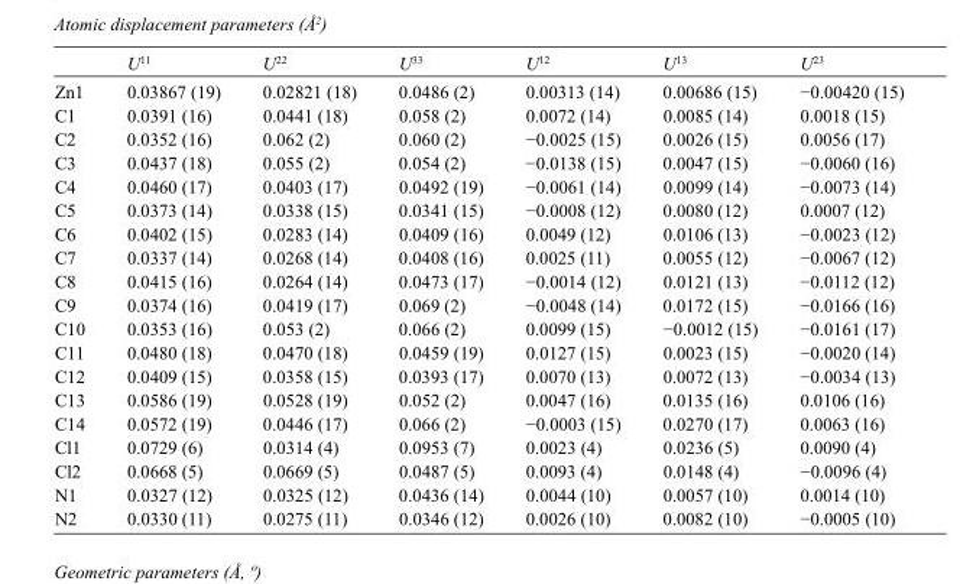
<table><thead><tr><td></td><td>U<sup>11</sup></td><td>U<sup>22</sup></td><td>U<sup>33</sup></td><td>U<sup>12</sup></td><td>U<sup>13</sup></td><td>U<sup>23</sup></td></tr></thead><tbody><tr><td>Zn1</td><td>0.03867 (19)</td><td>0.02821 (18)</td><td>0.0486 (2)</td><td>0.00313 (14)</td><td>0.00686 (15)</td><td>−0.00420 (15)</td></tr><tr><td>C1</td><td>0.0391 (16)</td><td>0.0441 (18)</td><td>0.058 (2)</td><td>0.0072 (14)</td><td>0.0085 (14)</td><td>0.0018 (15)</td></tr><tr><td>C2</td><td>0.0352 (16)</td><td>0.062 (2)</td><td>0.060 (2)</td><td>−0.0025 (15)</td><td>0.0026 (15)</td><td>0.0056 (17)</td></tr><tr><td>C3</td><td>0.0437 (18)</td><td>0.055 (2)</td><td>0.054 (2)</td><td>−0.0138 (15)</td><td>0.0047 (15)</td><td>−0.0060 (16)</td></tr><tr><td>C4</td><td>0.0460 (17)</td><td>0.0403 (17)</td><td>0.0492 (19)</td><td>−0.0061 (14)</td><td>0.0099 (14)</td><td>−0.0073 (14)</td></tr><tr><td>C5</td><td>0.0373 (14)</td><td>0.0338 (15)</td><td>0.0341 (15)</td><td>−0.0008 (12)</td><td>0.0080 (12)</td><td>0.0007 (12)</td></tr><tr><td>C6</td><td>0.0402 (15)</td><td>0.0283 (14)</td><td>0.0409 (16)</td><td>0.0049 (12)</td><td>0.0106 (13)</td><td>−0.0023 (12)</td></tr><tr><td>C7</td><td>0.0337 (14)</td><td>0.0268 (14)</td><td>0.0408 (16)</td><td>0.0025 (11)</td><td>0.0055 (12)</td><td>−0.0067 (12)</td></tr><tr><td>C8</td><td>0.0415 (16)</td><td>0.0264 (14)</td><td>0.0473 (17)</td><td>−0.0014 (12)</td><td>0.0121 (13)</td><td>−0.0112 (12)</td></tr><tr><td>C9</td><td>0.0374 (16)</td><td>0.0419 (17)</td><td>0.069 (2)</td><td>−0.0048 (14)</td><td>0.0172 (15)</td><td>−0.0166 (16)</td></tr><tr><td>C10</td><td>0.0353 (16)</td><td>0.053 (2)</td><td>0.066 (2)</td><td>0.0099 (15)</td><td>−0.0012 (15)</td><td>−0.0161 (17)</td></tr><tr><td>C11</td><td>0.0480 (18)</td><td>0.0470 (18)</td><td>0.0459 (19)</td><td>0.0127 (15)</td><td>0.0023 (15)</td><td>−0.0020 (14)</td></tr><tr><td>C12</td><td>0.0409 (15)</td><td>0.0358 (15)</td><td>0.0393 (17)</td><td>0.0070 (13)</td><td>0.0072 (13)</td><td>−0.0034 (13)</td></tr><tr><td>C13</td><td>0.0586 (19)</td><td>0.0528 (19)</td><td>0.052 (2)</td><td>0.0047 (16)</td><td>0.0135 (16)</td><td>0.0106 (16)</td></tr><tr><td>C14</td><td>0.0572 (19)</td><td>0.0446 (17)</td><td>0.066 (2)</td><td>−0.0003 (15)</td><td>0.0270 (17)</td><td>0.0063 (16)</td></tr><tr><td>Cl1</td><td>0.0729 (6)</td><td>0.0314 (4)</td><td>0.0953 (7)</td><td>0.0023 (4)</td><td>0.0236 (5)</td><td>0.0090 (4)</td></tr><tr><td>Cl2</td><td>0.0668 (5)</td><td>0.0669 (5)</td><td>0.0487 (5)</td><td>0.0093 (4)</td><td>0.0148 (4)</td><td>−0.0096 (4)</td></tr><tr><td>N1</td><td>0.0327 (12)</td><td>0.0325 (12)</td><td>0.0436 (14)</td><td>0.0044 (10)</td><td>0.0057 (10)</td><td>0.0014 (10)</td></tr><tr><td>N2</td><td>0.0330 (11)</td><td>0.0275 (11)</td><td>0.0346 (12)</td><td>0.0026 (10)</td><td>0.0082 (10)</td><td>−0.0005 (10)</td></tr></tbody></table>